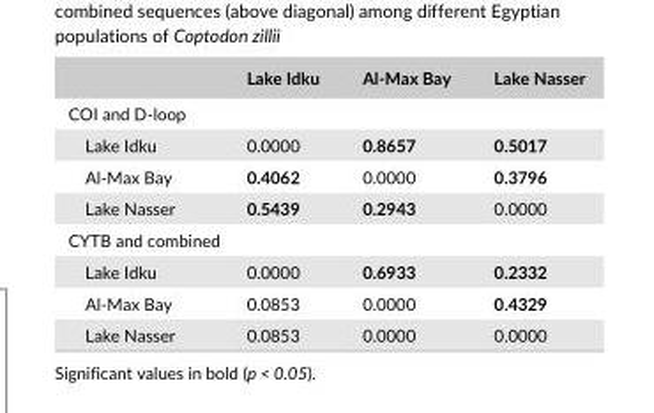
<table><thead><tr><td></td><td>Lake Idku</td><td>Al- Max Bay</td><td>Lake Nasser</td></tr></thead><tbody><tr><td colspan="4">COI and D- loop</td></tr><tr><td>Lake Idku</td><td>0.0000</td><td>0.8657</td><td>0.5017</td></tr><tr><td>Al- Max Bay</td><td>0.4062</td><td>0.0000</td><td>0.3796</td></tr><tr><td>Lake Nasser</td><td>0.5439</td><td>0.2943</td><td>0.0000</td></tr><tr><td colspan="4">CYTB and combined</td></tr><tr><td>Lake Idku</td><td>0.0000</td><td>0.6933</td><td>0.2332</td></tr><tr><td>Al- Max Bay</td><td>0.0853</td><td>0.0000</td><td>0.4329</td></tr><tr><td>Lake Nasser</td><td>0.0853</td><td>0.0000</td><td>0.0000</td></tr></tbody></table>